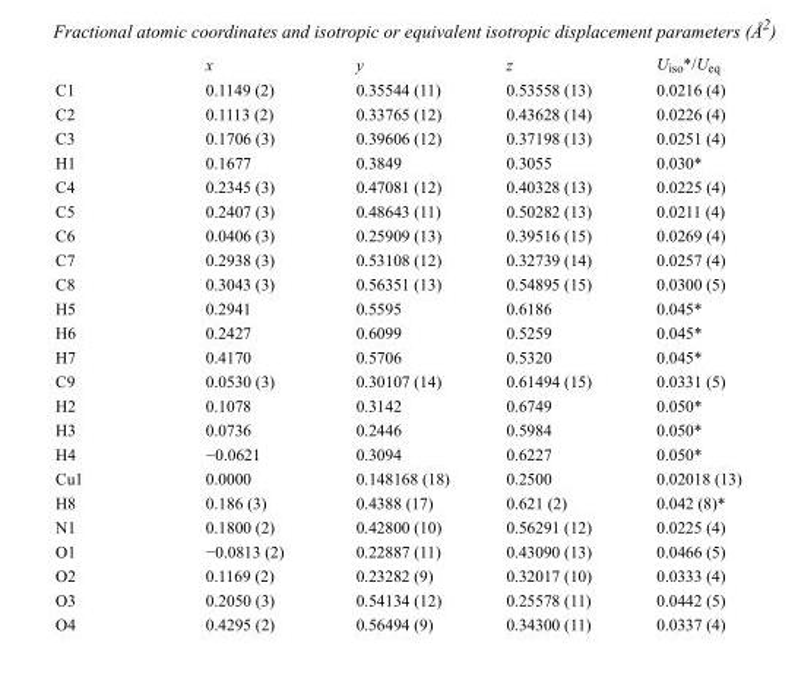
<table><thead><tr><td></td><td>x</td><td>y</td><td>z</td><td>U<sub>iso</sub>*/U<sub>eq</sub></td></tr></thead><tbody><tr><td>C1</td><td>0.1149 (2)</td><td>0.35544 (11)</td><td>0.53558 (13)</td><td>0.0216 (4)</td></tr><tr><td>C2</td><td>0.1113 (2)</td><td>0.33765 (12)</td><td>0.43628 (14)</td><td>0.0226 (4)</td></tr><tr><td>C3</td><td>0.1706 (3)</td><td>0.39606 (12)</td><td>0.37198 (13)</td><td>0.0251 (4)</td></tr><tr><td>H1</td><td>0.1677</td><td>0.3849</td><td>0.3055</td><td>0.030*</td></tr><tr><td>C4</td><td>0.2345 (3)</td><td>0.47081 (12)</td><td>0.40328 (13)</td><td>0.0225 (4)</td></tr><tr><td>C5</td><td>0.2407 (3)</td><td>0.48643 (11)</td><td>0.50282 (13)</td><td>0.0211 (4)</td></tr><tr><td>C6</td><td>0.0406 (3)</td><td>0.25909 (13)</td><td>0.39516 (15)</td><td>0.0269 (4)</td></tr><tr><td>C7</td><td>0.2938 (3)</td><td>0.53108 (12)</td><td>0.32739 (14)</td><td>0.0257 (4)</td></tr><tr><td>C8</td><td>0.3043 (3)</td><td>0.56351 (13)</td><td>0.54895 (15)</td><td>0.0300 (5)</td></tr><tr><td>H5</td><td>0.2941</td><td>0.5595</td><td>0.6186</td><td>0.045*</td></tr><tr><td>H6</td><td>0.2427</td><td>0.6099</td><td>0.5259</td><td>0.045*</td></tr><tr><td>H7</td><td>0.4170</td><td>0.5706</td><td>0.5320</td><td>0.045*</td></tr><tr><td>C9</td><td>0.0530 (3)</td><td>0.30107 (14)</td><td>0.61494 (15)</td><td>0.0331 (5)</td></tr><tr><td>H2</td><td>0.1078</td><td>0.3142</td><td>0.6749</td><td>0.050*</td></tr><tr><td>H3</td><td>0.0736</td><td>0.2446</td><td>0.5984</td><td>0.050*</td></tr><tr><td>H4</td><td>−0.0621</td><td>0.3094</td><td>0.6227</td><td>0.050*</td></tr><tr><td>Cu1</td><td>0.0000</td><td>0.148168 (18)</td><td>0.2500</td><td>0.02018 (13)</td></tr><tr><td>H8</td><td>0.186 (3)</td><td>0.4388 (17)</td><td>0.621 (2)</td><td>0.042 (8)*</td></tr><tr><td>N1</td><td>0.1800 (2)</td><td>0.42800 (10)</td><td>0.56291 (12)</td><td>0.0225 (4)</td></tr><tr><td>O1</td><td>−0.0813 (2)</td><td>0.22887 (11)</td><td>0.43090 (13)</td><td>0.0466 (5)</td></tr><tr><td>O2</td><td>0.1169 (2)</td><td>0.23282 (9)</td><td>0.32017 (10)</td><td>0.0333 (4)</td></tr><tr><td>O3</td><td>0.2050 (3)</td><td>0.54134 (12)</td><td>0.25578 (11)</td><td>0.0442 (5)</td></tr><tr><td>O4</td><td>0.4295 (2)</td><td>0.56494 (9)</td><td>0.34300 (11)</td><td>0.0337 (4)</td></tr></tbody></table>